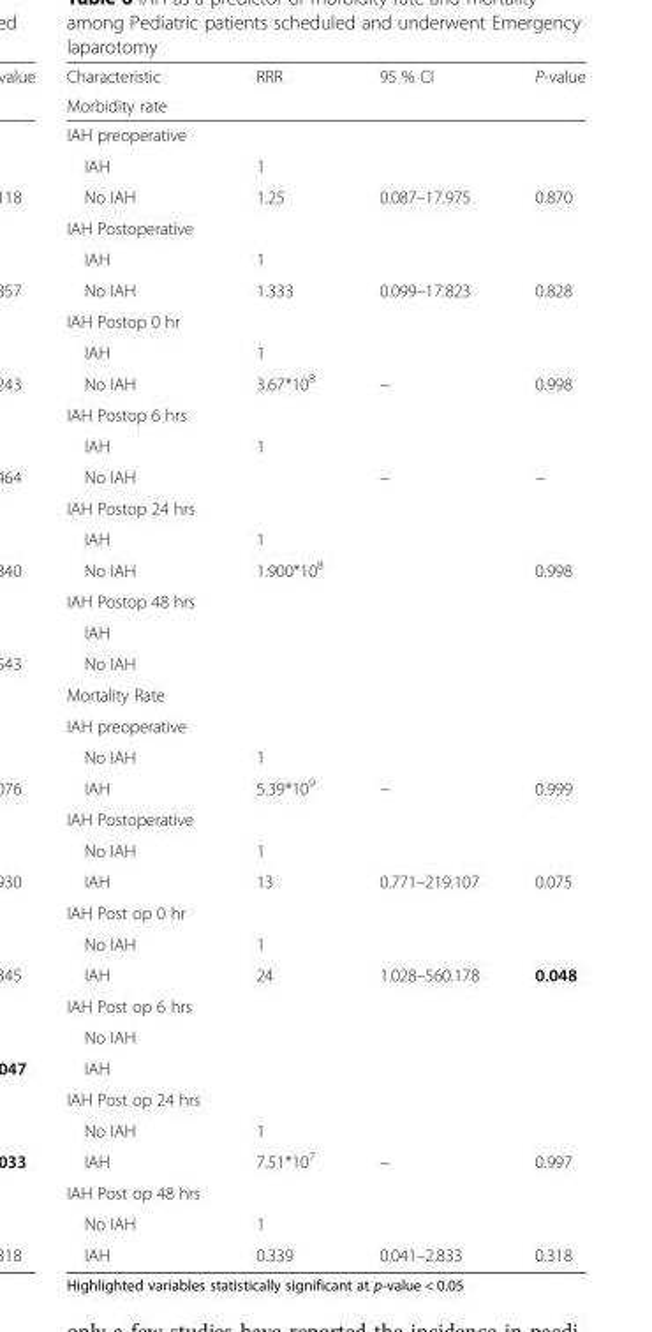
<table><thead><tr><td>Characteristic</td><td>RRR</td><td>95 % CI</td><td>P-value</td></tr><tr><td colspan="4">Morbidity rate</td></tr></thead><tbody><tr><td colspan="4">IAH preoperative</td></tr><tr><td>IAH</td><td>1</td><td></td><td></td></tr><tr><td>No IAH</td><td>1.25</td><td>0.087–17.975</td><td>0.870</td></tr><tr><td colspan="4">IAH Postoperative</td></tr><tr><td>IAH</td><td>1</td><td></td><td></td></tr><tr><td>No IAH</td><td>1.333</td><td>0.099–17.823</td><td>0.828</td></tr><tr><td colspan="4">IAH Postop 0 hr</td></tr><tr><td>IAH</td><td>1</td><td></td><td></td></tr><tr><td>No IAH</td><td>3.67*10<sup>8</sup></td><td>−</td><td>0.998</td></tr><tr><td colspan="4">IAH Postop 6 hrs</td></tr><tr><td>IAH</td><td>1</td><td></td><td></td></tr><tr><td>No IAH</td><td></td><td>−</td><td>−</td></tr><tr><td colspan="4">IAH Postop 24 hrs</td></tr><tr><td>IAH</td><td>1</td><td></td><td></td></tr><tr><td>No IAH</td><td>1.900*10<sup>8</sup></td><td></td><td>0.998</td></tr><tr><td colspan="4">IAH Postop 48 hrs</td></tr><tr><td colspan="4">IAH</td></tr><tr><td colspan="4">No IAH</td></tr><tr><td colspan="4">Mortality Rate</td></tr><tr><td colspan="4">IAH preoperative</td></tr><tr><td>No IAH</td><td>1</td><td></td><td></td></tr><tr><td>IAH</td><td>5.39*10<sup>9</sup></td><td>−</td><td>0.999</td></tr><tr><td colspan="4">IAH Postoperative</td></tr><tr><td>No IAH</td><td>1</td><td></td><td></td></tr><tr><td>IAH</td><td>13</td><td>0.771–219.107</td><td>0.075</td></tr><tr><td colspan="4">IAH Post op 0 hr</td></tr><tr><td>No IAH</td><td>1</td><td></td><td></td></tr><tr><td>IAH</td><td>24</td><td>1.028–560.178</td><td>0.048</td></tr><tr><td colspan="4">IAH Post op 6 hrs</td></tr><tr><td colspan="4">No IAH</td></tr><tr><td colspan="4">IAH</td></tr><tr><td colspan="4">IAH Post op 24 hrs</td></tr><tr><td>No IAH</td><td>1</td><td></td><td></td></tr><tr><td>IAH</td><td>7.51*10<sup>7</sup></td><td>−</td><td>0.997</td></tr><tr><td colspan="4">IAH Post op 48 hrs</td></tr><tr><td>No IAH</td><td>1</td><td></td><td></td></tr><tr><td>IAH</td><td>0.339</td><td>0.041–2.833</td><td>0.318</td></tr></tbody></table>